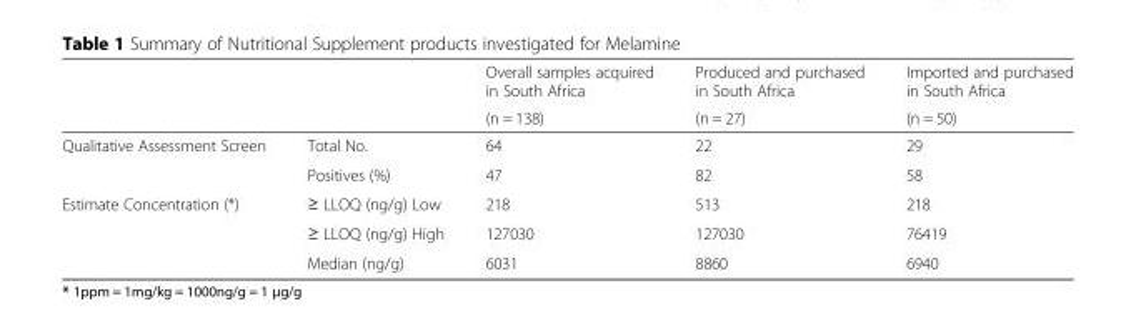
<table><thead><tr><td rowspan="2"></td><td rowspan="2"></td><td rowspan="2">Overall samples acquired in South Africa (n = 138)</td><td rowspan="2">Produced and purchased in South Africa (n = 27)</td><td rowspan="2">Imported and purchased in South Africa (n = 50)</td></tr><tr></tr></thead><tbody><tr><td rowspan="2">Qualitative Assessment Screen</td><td>Total No.</td><td>64</td><td>22</td><td>29</td></tr><tr><td>Positives (%)</td><td>47</td><td>82</td><td>58</td></tr><tr><td rowspan="3">Estimate Concentration (*)</td><td>≥ LLOQ (ng/g) Low</td><td>218</td><td>513</td><td>218</td></tr><tr><td>≥ LLOQ (ng/g) High</td><td>127030</td><td>127030</td><td>76419</td></tr><tr><td>Median (ng/g)</td><td>6031</td><td>8860</td><td>6940</td></tr></tbody></table>